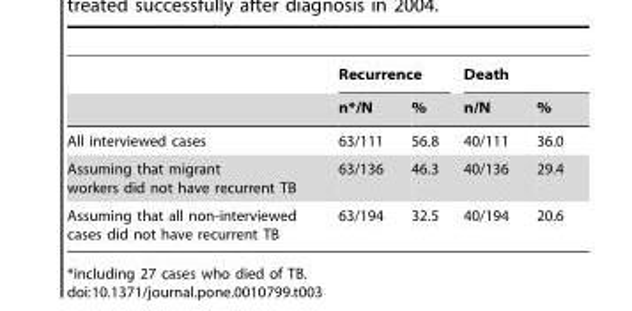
<table><thead><tr><td rowspan="2"></td><td colspan="2">Recurrence</td><td colspan="2">Death</td></tr><tr><td>n*/N</td><td>%</td><td>n/N</td><td>%</td></tr></thead><tbody><tr><td>All interviewed cases</td><td>63/111</td><td>56.8</td><td>40/111</td><td>36.0</td></tr><tr><td>Assuming that migrant workers did not have recurrent TB</td><td>63/136</td><td>46.3</td><td>40/136</td><td>29.4</td></tr><tr><td>Assuming that all non-interviewed cases did not have recurrent TB</td><td>63/194</td><td>32.5</td><td>40/194</td><td>20.6</td></tr></tbody></table>